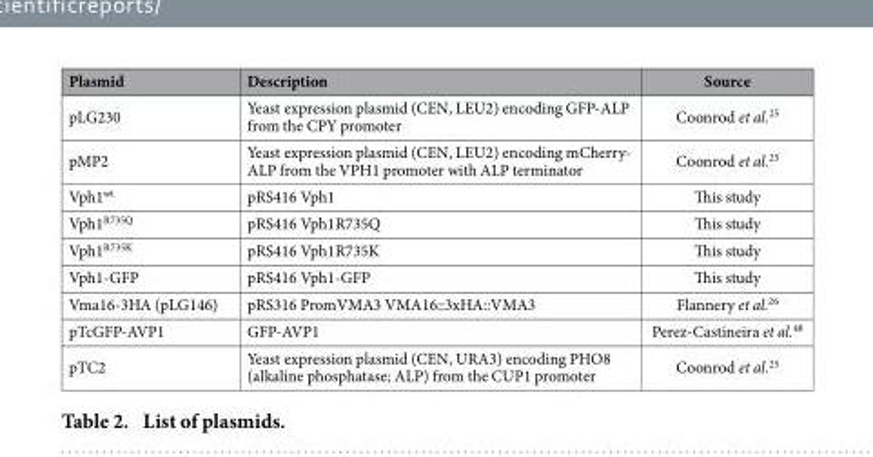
<table><thead><tr><td>Plasmid</td><td>Description</td><td>Source</td></tr></thead><tbody><tr><td>pLG230</td><td>Yeast expression plasmid (CEN, LEU2) encoding GFP-ALP from the CPY promoter</td><td>Coonrod et al.<sup>25</sup></td></tr><tr><td>pMP2</td><td>Yeast expression plasmid (CEN, LEU2) encoding mCherry- ALP from the VPH1 promoter with ALP terminator</td><td>Coonrod et al.<sup>25</sup></td></tr><tr><td>Vph1<sup>wt</sup></td><td>pRS416 Vph1</td><td>This study</td></tr><tr><td>Vph1<sup>R735Q</sup></td><td>pRS416 Vph1R735Q</td><td>This study</td></tr><tr><td>Vph1<sup>R735K</sup></td><td>pRS416 Vph1R735K</td><td>This study</td></tr><tr><td>Vph1-GFP</td><td>pRS416 Vph1-GFP</td><td>This study</td></tr><tr><td>Vma16-3HA (pLG146)</td><td>pRS316 PromVMA3 VMA16::3xHA::VMA3</td><td>Flannery et al.<sup>26</sup></td></tr><tr><td>pTcGFP-AVP1</td><td>GFP-AVP1</td><td>Perez-Castineira et al.<sup>48</sup></td></tr><tr><td>pTC2</td><td>Yeast expression plasmid (CEN, URA3) encoding PHO8 (alkaline phosphatase; ALP) from the CUP1 promoter</td><td>Coonrod et al.<sup>25</sup></td></tr></tbody></table>